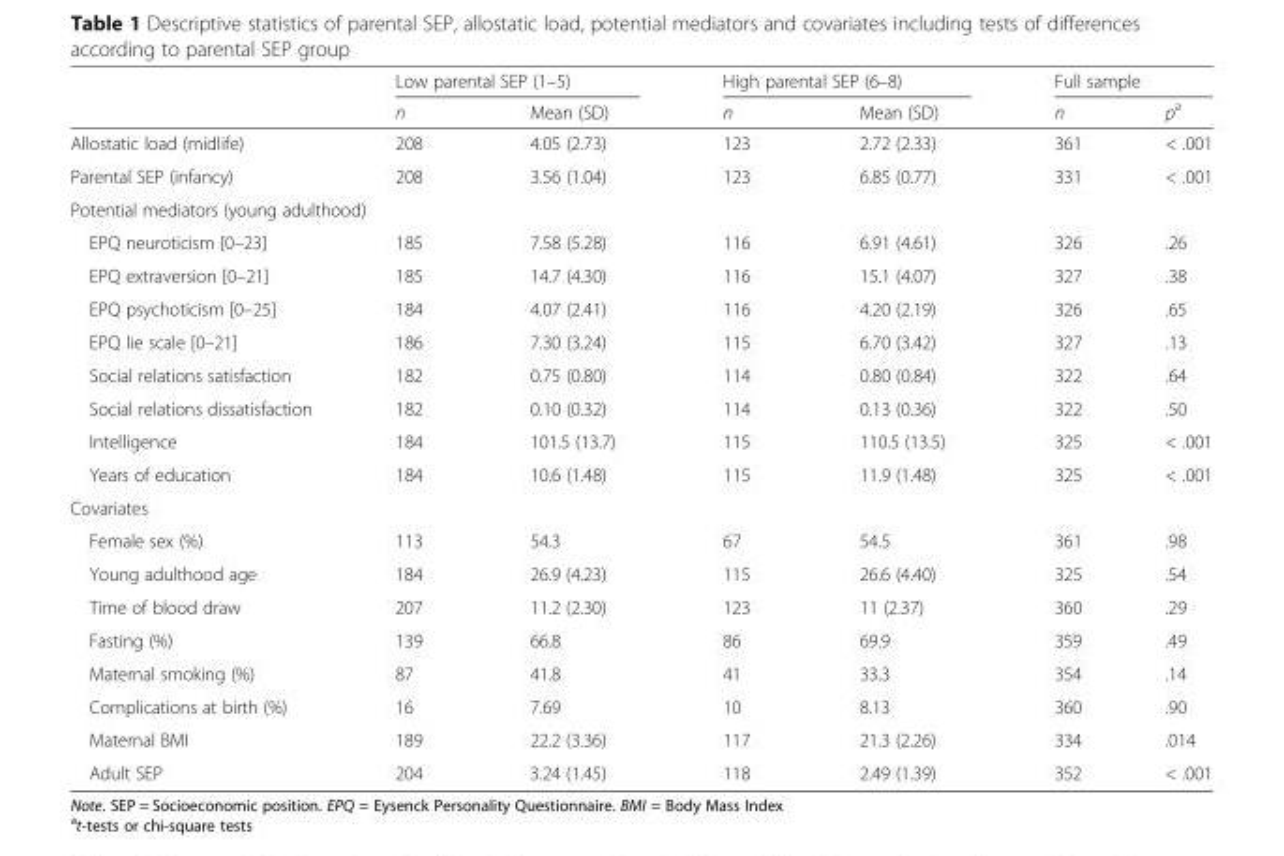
<table><thead><tr><td rowspan="2"></td><td colspan="2">Low parental SEP (1–5)</td><td colspan="2">High parental SEP (6–8)</td><td colspan="2">Full sample</td></tr><tr><td>n</td><td>Mean (SD)</td><td>n</td><td>Mean (SD)</td><td>n</td><td>p<sup>a</sup></td></tr></thead><tbody><tr><td>Allostatic load (midlife)</td><td>208</td><td>4.05 (2.73)</td><td>123</td><td>2.72 (2.33)</td><td>361</td><td>&lt; .001</td></tr><tr><td>Parental SEP (infancy)</td><td>208</td><td>3.56 (1.04)</td><td>123</td><td>6.85 (0.77)</td><td>331</td><td>&lt; .001</td></tr><tr><td colspan="7">Potential mediators (young adulthood)</td></tr><tr><td>EPQ neuroticism [0–23]</td><td>185</td><td>7.58 (5.28)</td><td>116</td><td>6.91 (4.61)</td><td>326</td><td>.26</td></tr><tr><td>EPQ extraversion [0–21]</td><td>185</td><td>14.7 (4.30)</td><td>116</td><td>15.1 (4.07)</td><td>327</td><td>.38</td></tr><tr><td>EPQ psychoticism [0–25]</td><td>184</td><td>4.07 (2.41)</td><td>116</td><td>4.20 (2.19)</td><td>326</td><td>.65</td></tr><tr><td>EPQ lie scale [0–21]</td><td>186</td><td>7.30 (3.24)</td><td>115</td><td>6.70 (3.42)</td><td>327</td><td>.13</td></tr><tr><td>Social relations satisfaction</td><td>182</td><td>0.75 (0.80)</td><td>114</td><td>0.80 (0.84)</td><td>322</td><td>.64</td></tr><tr><td>Social relations dissatisfaction</td><td>182</td><td>0.10 (0.32)</td><td>114</td><td>0.13 (0.36)</td><td>322</td><td>.50</td></tr><tr><td>Intelligence</td><td>184</td><td>101.5 (13.7)</td><td>115</td><td>110.5 (13.5)</td><td>325</td><td>&lt; .001</td></tr><tr><td>Years of education</td><td>184</td><td>10.6 (1.48)</td><td>115</td><td>11.9 (1.48)</td><td>325</td><td>&lt; .001</td></tr><tr><td colspan="7">Covariates</td></tr><tr><td>Female sex (%)</td><td>113</td><td>54.3</td><td>67</td><td>54.5</td><td>361</td><td>.98</td></tr><tr><td>Young adulthood age</td><td>184</td><td>26.9 (4.23)</td><td>115</td><td>26.6 (4.40)</td><td>325</td><td>.54</td></tr><tr><td>Time of blood draw</td><td>207</td><td>11.2 (2.30)</td><td>123</td><td>11 (2.37)</td><td>360</td><td>.29</td></tr><tr><td>Fasting (%)</td><td>139</td><td>66.8</td><td>86</td><td>69.9</td><td>359</td><td>.49</td></tr><tr><td>Maternal smoking (%)</td><td>87</td><td>41.8</td><td>41</td><td>33.3</td><td>354</td><td>.14</td></tr><tr><td>Complications at birth (%)</td><td>16</td><td>7.69</td><td>10</td><td>8.13</td><td>360</td><td>.90</td></tr><tr><td>Maternal BMI</td><td>189</td><td>22.2 (3.36)</td><td>117</td><td>21.3 (2.26)</td><td>334</td><td>.014</td></tr><tr><td>Adult SEP</td><td>204</td><td>3.24 (1.45)</td><td>118</td><td>2.49 (1.39)</td><td>352</td><td>&lt; .001</td></tr></tbody></table>